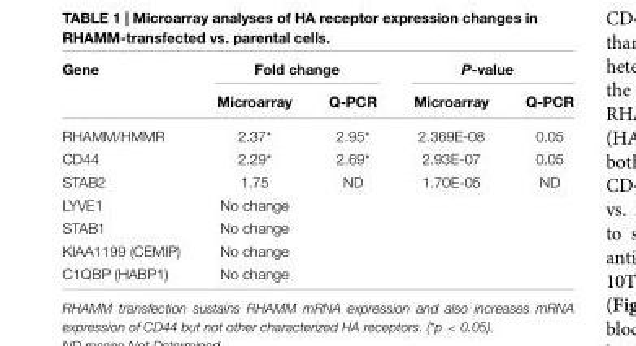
<table><tbody><tr><td rowspan="2">Gene</td><td colspan="2">Fold change</td><td colspan="2">P-value</td></tr><tr><td>Microarray</td><td>Q-PCR</td><td>Microarray</td><td>Q-PCR</td></tr><tr><td>RHAMM/HMMR</td><td>2.37*</td><td>2.95*</td><td>2.369E-08</td><td>0.05</td></tr><tr><td>CD44</td><td>2.29*</td><td>2.69*</td><td>2.93E-07</td><td>0.05</td></tr><tr><td>STAB2</td><td>1.75</td><td>ND</td><td>1.70E-05</td><td>ND</td></tr><tr><td>LYVE1</td><td>No change</td><td></td><td></td><td></td></tr><tr><td>STAB1</td><td>No change</td><td></td><td></td><td></td></tr><tr><td>KIAA1199 (CEMIP)</td><td>No change</td><td></td><td></td><td></td></tr><tr><td>C1QBP (HABP1)</td><td>No change</td><td></td><td></td><td></td></tr></tbody></table>